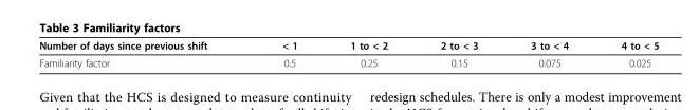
<table><thead><tr><td>Number of days since previous shift</td><td>&lt; 1</td><td>1 to &lt; 2</td><td>2 to &lt; 3</td><td>3 to &lt; 4</td><td>4 to &lt; 5</td></tr></thead><tbody><tr><td>Familiarity factor</td><td>0.5</td><td>0.25</td><td>0.15</td><td>0.075</td><td>0.025</td></tr></tbody></table>